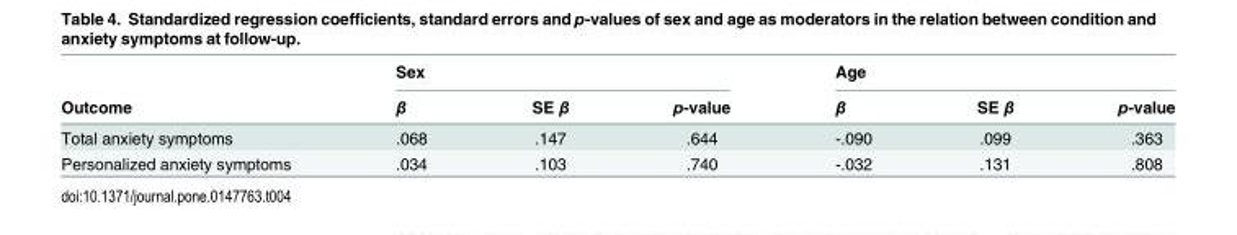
<table><thead><tr><td rowspan="2">Outcome</td><td colspan="3">Sex</td><td colspan="3">Age</td></tr><tr><td>β</td><td>SE β</td><td>p-value</td><td>β</td><td>SE β</td><td>p-value</td></tr></thead><tbody><tr><td>Total anxiety symptoms</td><td>.068</td><td>.147</td><td>.644</td><td>-.090</td><td>.099</td><td>.363</td></tr><tr><td>Personalized anxiety symptoms</td><td>.034</td><td>.103</td><td>.740</td><td>-.032</td><td>.131</td><td>.808</td></tr></tbody></table>